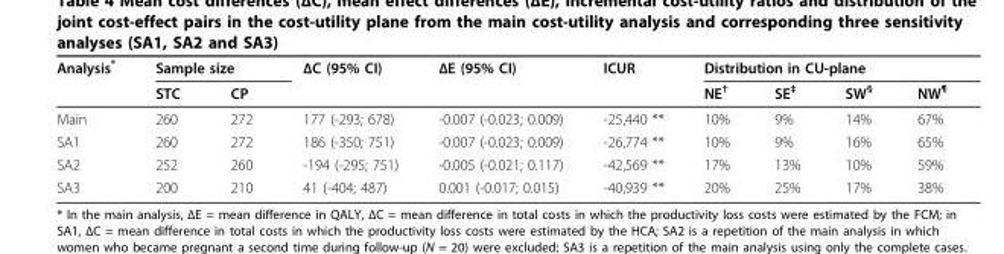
<table><thead><tr><td rowspan="2">Analysis*</td><td colspan="2">Sample size</td><td rowspan="2">ΔC (95% CI)</td><td rowspan="2">ΔE (95% CI)</td><td rowspan="2">ICUR</td><td colspan="4">Distribution in CU-plane</td></tr><tr><td>STC</td><td>CP</td><td>NE<sup>†</sup></td><td>SE<sup>‡</sup></td><td>SW<sup>§</sup></td><td>NW<sup>¶</sup></td></tr></thead><tbody><tr><td>Main</td><td>260</td><td>272</td><td>177 (-293; 678)</td><td>-0.007 (-0.023; 0.009)</td><td>-25,440 **</td><td>10%</td><td>9%</td><td>14%</td><td>67%</td></tr><tr><td>SA1</td><td>260</td><td>272</td><td>186 (-350; 751)</td><td>-0.007 (-0.023; 0.009)</td><td>-26,774 **</td><td>10%</td><td>9%</td><td>16%</td><td>65%</td></tr><tr><td>SA2</td><td>252</td><td>260</td><td>-194 (-295; 751)</td><td>-0.005 (-0.021; 0.117)</td><td>-42,569 **</td><td>17%</td><td>13%</td><td>10%</td><td>59%</td></tr><tr><td>SA3</td><td>200</td><td>210</td><td>41 (-404; 487)</td><td>0.001 (-0.017; 0.015)</td><td>-40,939 **</td><td>20%</td><td>25%</td><td>17%</td><td>38%</td></tr></tbody></table>